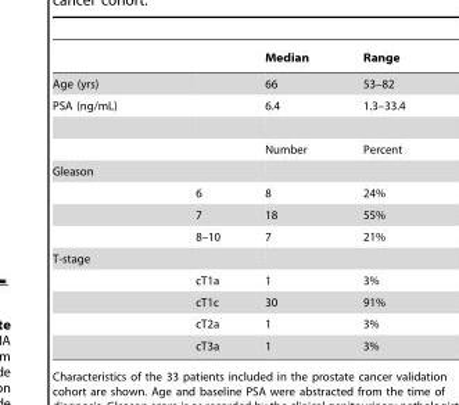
<table><thead><tr><td></td><td></td><td>Median</td><td>Range</td></tr></thead><tbody><tr><td>Age (yrs)</td><td></td><td>66</td><td>53–82</td></tr><tr><td rowspan="2">PSA (ng/mL)</td><td></td><td>6.4</td><td>1.3–33.4</td></tr><tr><td></td><td>Number</td><td>Percent</td></tr><tr><td colspan="4">Gleason</td></tr><tr><td></td><td>6</td><td>8</td><td>24%</td></tr><tr><td></td><td>7</td><td>18</td><td>55%</td></tr><tr><td></td><td>8–10</td><td>7</td><td>21%</td></tr><tr><td colspan="4">T-stage</td></tr><tr><td></td><td>cT1a</td><td>1</td><td>3%</td></tr><tr><td></td><td>cT1c</td><td>30</td><td>91%</td></tr><tr><td></td><td>cT2a</td><td>1</td><td>3%</td></tr><tr><td></td><td>cT3a</td><td>1</td><td>3%</td></tr></tbody></table>